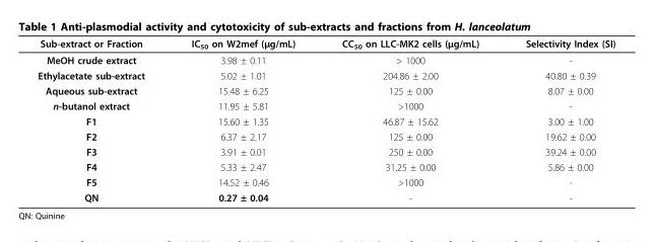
<table><thead><tr><td>Sub-extract or Fraction</td><td>IC<sub>50</sub> on W2mef (μg/mL)</td><td>CC<sub>50</sub> on LLC-MK2 cells (μg/mL)</td><td>Selectivity Index (SI)</td></tr></thead><tbody><tr><td>MeOH crude extract</td><td>3.98 ± 0.11</td><td>&gt; 1000</td><td>-</td></tr><tr><td>Ethylacetate sub-extract</td><td>5.02 ± 1.01</td><td>204.86 ± 2.00</td><td>40.80 ± 0.39</td></tr><tr><td>Aqueous sub-extract</td><td>15.48 ± 6.25</td><td>125 ± 0.00</td><td>8.07 ± 0.00</td></tr><tr><td>n-butanol extract</td><td>11.95 ± 5.81</td><td>&gt;1000</td><td>-</td></tr><tr><td>F1</td><td>15.60 ± 1.35</td><td>46.87 ± 15.62</td><td>3.00 ± 1.00</td></tr><tr><td>F2</td><td>6.37 ± 2.17</td><td>125 ± 0.00</td><td>19.62 ± 0.00</td></tr><tr><td>F3</td><td>3.91 ± 0.01</td><td>250 ± 0.00</td><td>39.24 ± 0.00</td></tr><tr><td>F4</td><td>5.33 ± 2.47</td><td>31.25 ± 0.00</td><td>5.86 ± 0.00</td></tr><tr><td>F5</td><td>14.52 ± 0.46</td><td>&gt;1000</td><td>-</td></tr><tr><td>QN</td><td>0.27 ± 0.04</td><td>-</td><td>-</td></tr></tbody></table>